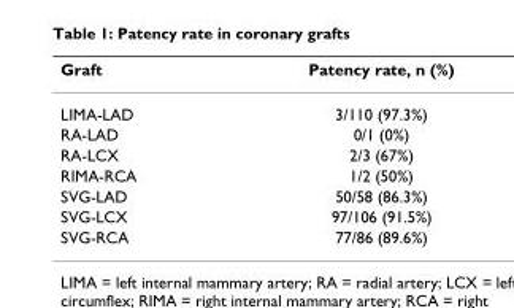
<table><thead><tr><td>Graft</td><td>Patency rate, n (%)</td></tr></thead><tbody><tr><td>LIMA-LAD</td><td>3/110 (97.3%)</td></tr><tr><td>RA-LAD</td><td>0/1 (0%)</td></tr><tr><td>RA-LCX</td><td>2/3 (67%)</td></tr><tr><td>RIMA-RCA</td><td>1/2 (50%)</td></tr><tr><td>SVG-LAD</td><td>50/58 (86.3%)</td></tr><tr><td>SVG-LCX</td><td>97/106 (91.5%)</td></tr><tr><td>SVG-RCA</td><td>77/86 (89.6%)</td></tr></tbody></table>